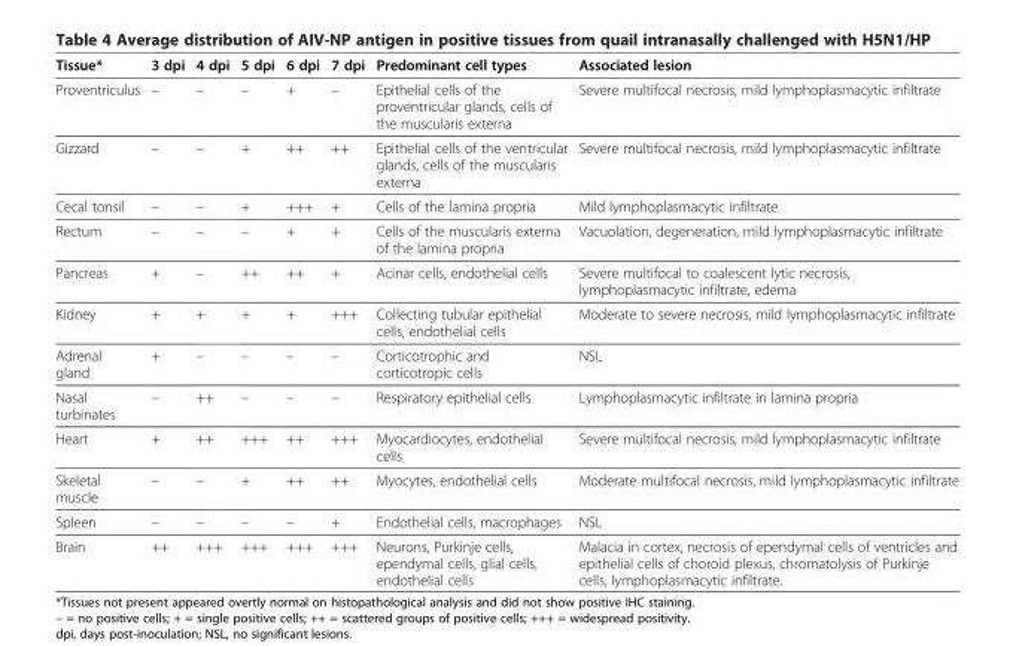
<table><thead><tr><td>Tissue*</td><td>3 dpi</td><td>4 dpi</td><td>5 dpi</td><td>6 dpi</td><td>7 dpi</td><td>Predominant cell types</td><td>Associated lesion</td></tr></thead><tbody><tr><td>Proventriculus</td><td>–</td><td>–</td><td>–</td><td>+</td><td>–</td><td>Epithelial cells of the proventricular glands, cells of the muscularis externa</td><td>Severe multifocal necrosis, mild lymphoplasmacytic infiltrate</td></tr><tr><td>Gizzard</td><td>–</td><td>–</td><td>+</td><td>++</td><td>++</td><td>Epithelial cells of the ventricular glands, cells of the muscularis externa</td><td>Severe multifocal necrosis, mild lymphoplasmacytic infiltrate</td></tr><tr><td>Cecal tonsil</td><td>–</td><td>–</td><td>+</td><td>+++</td><td>+</td><td>Cells of the lamina propria</td><td>Mild lymphoplasmacytic infiltrate</td></tr><tr><td>Rectum</td><td>–</td><td>–</td><td>–</td><td>+</td><td>+</td><td>Cells of the muscularis externa of the lamina propria</td><td>Vacuolation, degeneration, mild lymphoplasmacytic infiltrate</td></tr><tr><td>Pancreas</td><td>+</td><td>–</td><td>++</td><td>++</td><td>+</td><td>Acinar cells, endothelial cells</td><td>Severe multifocal to coalescent lytic necrosis, lymphoplasmacytic infiltrate, edema</td></tr><tr><td>Kidney</td><td>+</td><td>+</td><td>+</td><td>+</td><td>+++</td><td>Collecting tubular epithelial cells, endothelial cells</td><td>Moderate to severe necrosis, mild lymphoplasmacytic infiltrate</td></tr><tr><td>Adrenal gland</td><td>+</td><td>–</td><td>–</td><td>–</td><td>–</td><td>Corticotrophic and corticotropic cells</td><td>NSL</td></tr><tr><td>Nasal turbinates</td><td>–</td><td>++</td><td>–</td><td>–</td><td>–</td><td>Respiratory epithelial cells</td><td>Lymphoplasmacytic infiltrate in lamina propria</td></tr><tr><td>Heart</td><td>+</td><td>++</td><td>+++</td><td>++</td><td>+++</td><td>Myocardiocytes, endothelial cells</td><td>Severe multifocal necrosis, mild lymphoplasmacytic infiltrate</td></tr><tr><td>Skeletal muscle</td><td>–</td><td>–</td><td>+</td><td>++</td><td>++</td><td>Myocytes, endothelial cells</td><td>Moderate multifocal necrosis, mild lymphoplasmacytic infiltrate</td></tr><tr><td>Spleen</td><td>–</td><td>–</td><td>–</td><td>–</td><td>+</td><td>Endothelial cells, macrophages</td><td>NSL</td></tr><tr><td>Brain</td><td>++</td><td>+++</td><td>+++</td><td>+++</td><td>+++</td><td>Neurons, Purkinje cells, ependymal cells, glial cells, endothelial cells</td><td>Malacia in cortex, necrosis of ependymal cells of ventricles and epithelial cells of choroid plexus, chromatolysis of Purkinje cells, lymphoplasmacytic infiltrate.</td></tr></tbody></table>